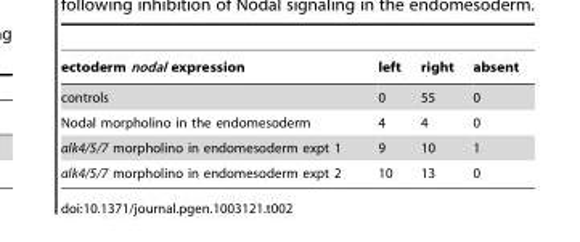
<table><thead><tr><td>ectoderm nodal expression</td><td>left</td><td>right</td><td>absent</td></tr></thead><tbody><tr><td>controls</td><td>0</td><td>55</td><td>0</td></tr><tr><td>Nodal morpholino in the endomesoderm</td><td>4</td><td>4</td><td>0</td></tr><tr><td>alk4/5/7 morpholino in endomesoderm expt 1</td><td>9</td><td>10</td><td>1</td></tr><tr><td>alk4/5/7 morpholino in endomesoderm expt 2</td><td>10</td><td>13</td><td>0</td></tr></tbody></table>